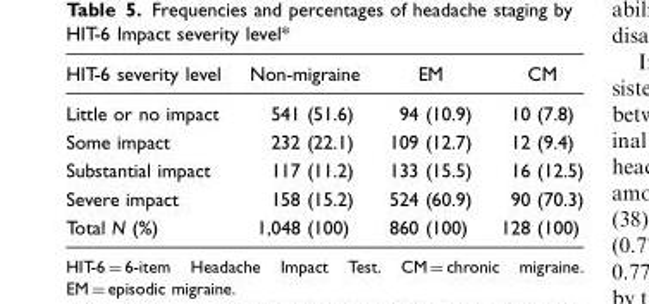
<table><thead><tr><td>HIT-6 severity level</td><td>Non-migraine</td><td>EM</td><td>CM</td></tr></thead><tbody><tr><td>Little or no impact</td><td>541 (51.6)</td><td>94 (10.9)</td><td>10 (7.8)</td></tr><tr><td>Some impact</td><td>232 (22.1)</td><td>109 (12.7)</td><td>12 (9.4)</td></tr><tr><td>Substantial impact</td><td>117 (11.2)</td><td>133 (15.5)</td><td>16 (12.5)</td></tr><tr><td>Severe impact</td><td>158 (15.2)</td><td>524 (60.9)</td><td>90 (70.3)</td></tr><tr><td>Total N (%)</td><td>1,048 (100)</td><td>860 (100)</td><td>128 (100)</td></tr></tbody></table>